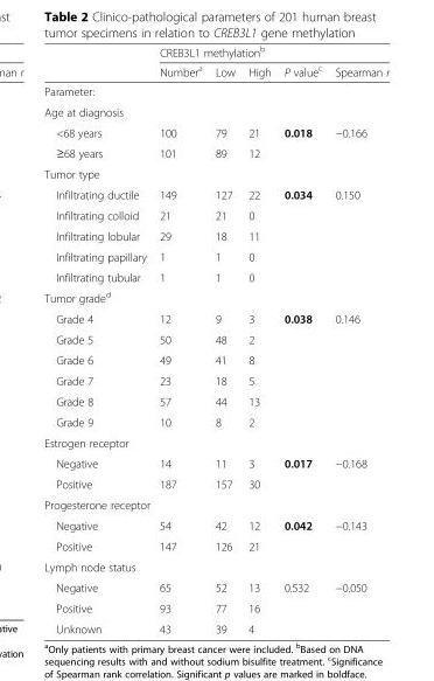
<table><thead><tr><td rowspan="2"></td><td colspan="5">CREB3L1 methylation<sup>b</sup></td></tr><tr><td>Number<sup>a</sup></td><td>Low</td><td>High</td><td>P value<sup>c</sup></td><td>Spearman r</td></tr></thead><tbody><tr><td colspan="6">Parameter:</td></tr><tr><td colspan="6">Age at diagnosis</td></tr><tr><td>&lt;68 years</td><td>100</td><td>79</td><td>21</td><td>0.018</td><td>−0.166</td></tr><tr><td>≥68 years</td><td>101</td><td>89</td><td>12</td><td></td><td></td></tr><tr><td colspan="6">Tumor type</td></tr><tr><td>Infiltrating ductile</td><td>149</td><td>127</td><td>22</td><td>0.034</td><td>0.150</td></tr><tr><td>Infiltrating colloid</td><td>21</td><td>21</td><td>0</td><td></td><td></td></tr><tr><td>Infiltrating lobular</td><td>29</td><td>18</td><td>11</td><td></td><td></td></tr><tr><td>Infiltrating papillary</td><td>1</td><td>1</td><td>0</td><td></td><td></td></tr><tr><td>Infiltrating tubular</td><td>1</td><td>1</td><td>0</td><td></td><td></td></tr><tr><td colspan="6">Tumor grade<sup>d</sup></td></tr><tr><td>Grade 4</td><td>12</td><td>9</td><td>3</td><td>0.038</td><td>0.146</td></tr><tr><td>Grade 5</td><td>50</td><td>48</td><td>2</td><td></td><td></td></tr><tr><td>Grade 6</td><td>49</td><td>41</td><td>8</td><td></td><td></td></tr><tr><td>Grade 7</td><td>23</td><td>18</td><td>5</td><td></td><td></td></tr><tr><td>Grade 8</td><td>57</td><td>44</td><td>13</td><td></td><td></td></tr><tr><td>Grade 9</td><td>10</td><td>8</td><td>2</td><td></td><td></td></tr><tr><td colspan="6">Estrogen receptor</td></tr><tr><td>Negative</td><td>14</td><td>11</td><td>3</td><td>0.017</td><td>−0.168</td></tr><tr><td>Positive</td><td>187</td><td>157</td><td>30</td><td></td><td></td></tr><tr><td colspan="6">Progesterone receptor</td></tr><tr><td>Negative</td><td>54</td><td>42</td><td>12</td><td>0.042</td><td>−0.143</td></tr><tr><td>Positive</td><td>147</td><td>126</td><td>21</td><td></td><td></td></tr><tr><td colspan="6">Lymph node status</td></tr><tr><td>Negative</td><td>65</td><td>52</td><td>13</td><td>0.532</td><td>−0.050</td></tr><tr><td>Positive</td><td>93</td><td>77</td><td>16</td><td></td><td></td></tr><tr><td>Unknown</td><td>43</td><td>39</td><td>4</td><td></td><td></td></tr></tbody></table>